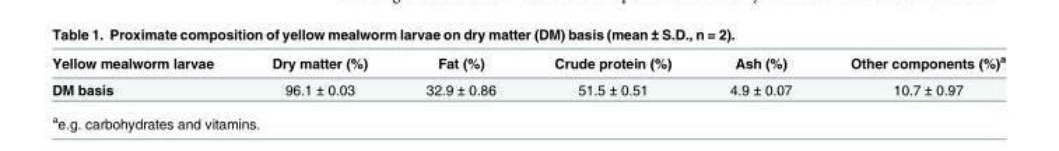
<table><thead><tr><td>Yellow mealworm larvae</td><td>Dry matter (%)</td><td>Fat (%)</td><td>Crude protein (%)</td><td>Ash (%)</td><td>Other components (%)<sup>a</sup></td></tr></thead><tbody><tr><td>DM basis</td><td>96.1 ± 0.03</td><td>32.9 ± 0.86</td><td>51.5 ± 0.51</td><td>4.9 ± 0.07</td><td>10.7 ± 0.97</td></tr></tbody></table>